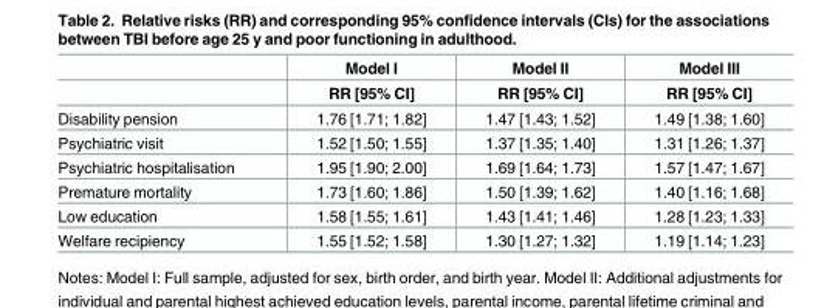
<table><thead><tr><td rowspan="2"></td><td rowspan="2">Model I RR [95% CI]</td><td rowspan="2">Model II RR [95% CI]</td><td rowspan="2">Model III RR [95% CI]</td></tr><tr></tr></thead><tbody><tr><td>Disability pension</td><td>1.76 [1.71; 1.82]</td><td>1.47 [1.43; 1.52]</td><td>1.49 [1.38; 1.60]</td></tr><tr><td>Psychiatric visit</td><td>1.52 [1.50; 1.55]</td><td>1.37 [1.35; 1.40]</td><td>1.31 [1.26; 1.37]</td></tr><tr><td>Psychiatric hospitalisation</td><td>1.95 [1.90; 2.00]</td><td>1.69 [1.64; 1.73]</td><td>1.57 [1.47; 1.67]</td></tr><tr><td>Premature mortality</td><td>1.73 [1.60; 1.86]</td><td>1.50 [1.39; 1.62]</td><td>1.40 [1.16; 1.68]</td></tr><tr><td>Low education</td><td>1.58 [1.55; 1.61]</td><td>1.43 [1.41; 1.46]</td><td>1.28 [1.23; 1.33]</td></tr><tr><td>Welfare recipiency</td><td>1.55 [1.52; 1.58]</td><td>1.30 [1.27; 1.32]</td><td>1.19 [1.14; 1.23]</td></tr></tbody></table>